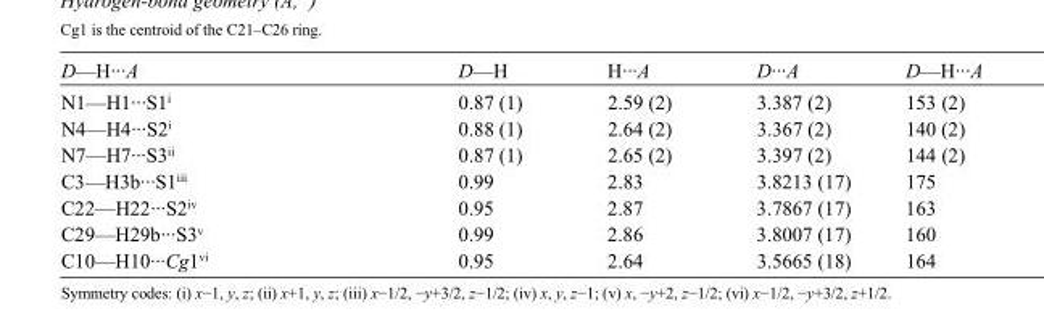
<table><tbody><tr><td>D—H···A</td><td>D—H</td><td>H···A</td><td>D···A</td><td>D—H···A</td></tr><tr><td>N1—H1···S1<sup>i</sup></td><td>0.87 (1)</td><td>2.59 (2)</td><td>3.387 (2)</td><td>153 (2)</td></tr><tr><td>N4—H4···S2<sup>i</sup></td><td>0.88 (1)</td><td>2.64 (2)</td><td>3.367 (2)</td><td>140 (2)</td></tr><tr><td>N7—H7···S3<sup>ii</sup></td><td>0.87 (1)</td><td>2.65 (2)</td><td>3.397 (2)</td><td>144 (2)</td></tr><tr><td>C3—H3b···S1<sup>iii</sup></td><td>0.99</td><td>2.83</td><td>3.8213 (17)</td><td>175</td></tr><tr><td>C22—H22···S2<sup>iv</sup></td><td>0.95</td><td>2.87</td><td>3.7867 (17)</td><td>163</td></tr><tr><td>C29—H29b···S3<sup>v</sup></td><td>0.99</td><td>2.86</td><td>3.8007 (17)</td><td>160</td></tr><tr><td>C10—H10···Cg1<sup>vi</sup></td><td>0.95</td><td>2.64</td><td>3.5665 (18)</td><td>164</td></tr></tbody></table>